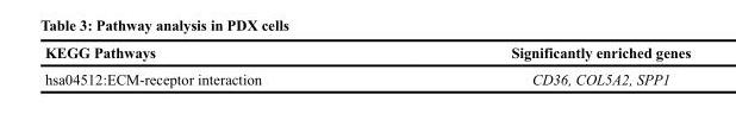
<table><thead><tr><td>KEGG Pathways</td><td>Significantly enriched genes</td></tr></thead><tbody><tr><td>hsa04512:ECM-receptor interaction</td><td>CD36, COL5A2, SPP1</td></tr></tbody></table>